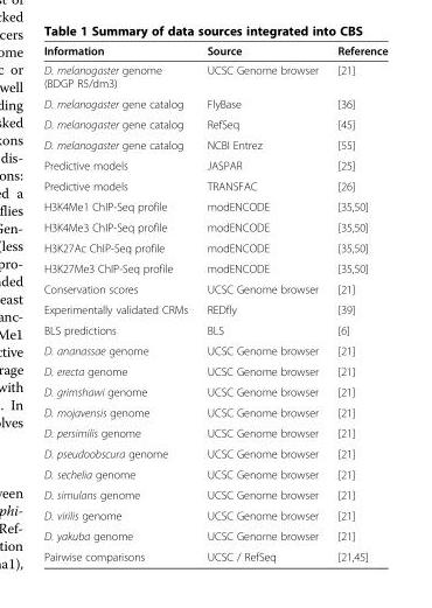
<table><thead><tr><td>Information</td><td>Source</td><td>Reference</td></tr></thead><tbody><tr><td>D. melanogaster genome (BDGP R5/dm3)</td><td>UCSC Genome browser</td><td>[21]</td></tr><tr><td>D. melanogaster gene catalog</td><td>FlyBase</td><td>[36]</td></tr><tr><td>D. melanogaster gene catalog</td><td>RefSeq</td><td>[45]</td></tr><tr><td>D. melanogaster gene catalog</td><td>NCBI Entrez</td><td>[55]</td></tr><tr><td>Predictive models</td><td>JASPAR</td><td>[25]</td></tr><tr><td>Predictive models</td><td>TRANSFAC</td><td>[26]</td></tr><tr><td>H3K4Me1 ChIP-Seq profile</td><td>modENCODE</td><td>[35,50]</td></tr><tr><td>H3K4Me3 ChIP-Seq profile</td><td>modENCODE</td><td>[35,50]</td></tr><tr><td>H3K27Ac ChIP-Seq profile</td><td>modENCODE</td><td>[35,50]</td></tr><tr><td>H3K27Me3 ChIP-Seq profile</td><td>modENCODE</td><td>[35,50]</td></tr><tr><td>Conservation scores</td><td>UCSC Genome browser</td><td>[21]</td></tr><tr><td>Experimentally validated CRMs</td><td>REDfly</td><td>[39]</td></tr><tr><td>BLS predictions</td><td>BLS</td><td>[6]</td></tr><tr><td>D. ananassae genome</td><td>UCSC Genome browser</td><td>[21]</td></tr><tr><td>D. erecta genome</td><td>UCSC Genome browser</td><td>[21]</td></tr><tr><td>D. grimshawi genome</td><td>UCSC Genome browser</td><td>[21]</td></tr><tr><td>D. mojavensis genome</td><td>UCSC Genome browser</td><td>[21]</td></tr><tr><td>D. persimilis genome</td><td>UCSC Genome browser</td><td>[21]</td></tr><tr><td>D. pseudoobscura genome</td><td>UCSC Genome browser</td><td>[21]</td></tr><tr><td>D. sechelia genome</td><td>UCSC Genome browser</td><td>[21]</td></tr><tr><td>D. simulans genome</td><td>UCSC Genome browser</td><td>[21]</td></tr><tr><td>D. virilis genome</td><td>UCSC Genome browser</td><td>[21]</td></tr><tr><td>D. yakuba genome</td><td>UCSC Genome browser</td><td>[21]</td></tr><tr><td>Pairwise comparisons</td><td>UCSC / RefSeq</td><td>[21,45]</td></tr></tbody></table>